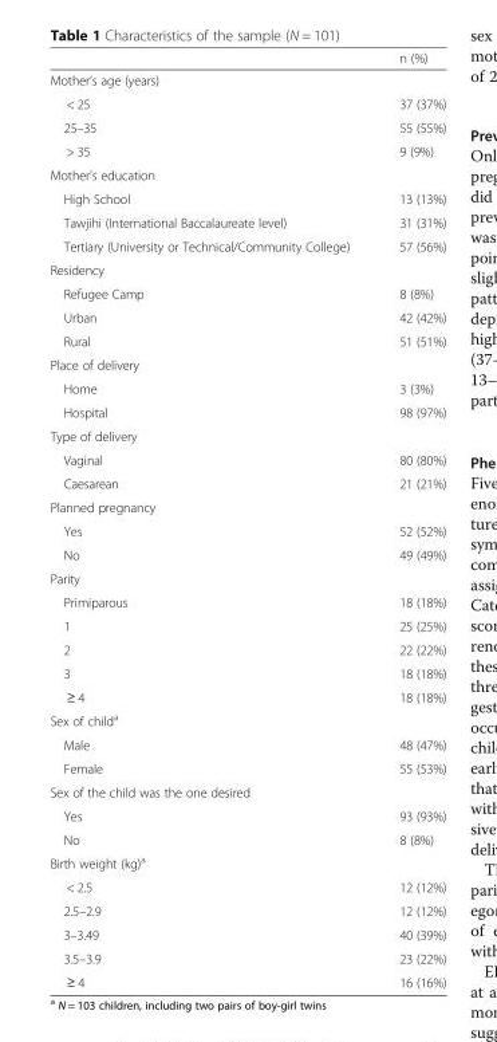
<table><thead><tr><td></td><td>n (%)</td></tr></thead><tbody><tr><td colspan="2">Mother’s age (years)</td></tr><tr><td>&lt; 25</td><td>37 (37%)</td></tr><tr><td>25–35</td><td>55 (55%)</td></tr><tr><td>&gt; 35</td><td>9 (9%)</td></tr><tr><td colspan="2">Mother’s education</td></tr><tr><td>High School</td><td>13 (13%)</td></tr><tr><td>Tawjihi (International Baccalaureate level)</td><td>31 (31%)</td></tr><tr><td>Tertiary (University or Technical/Community College)</td><td>57 (56%)</td></tr><tr><td colspan="2">Residency</td></tr><tr><td>Refugee Camp</td><td>8 (8%)</td></tr><tr><td>Urban</td><td>42 (42%)</td></tr><tr><td>Rural</td><td>51 (51%)</td></tr><tr><td colspan="2">Place of delivery</td></tr><tr><td>Home</td><td>3 (3%)</td></tr><tr><td>Hospital</td><td>98 (97%)</td></tr><tr><td colspan="2">Type of delivery</td></tr><tr><td>Vaginal</td><td>80 (80%)</td></tr><tr><td>Caesarean</td><td>21 (21%)</td></tr><tr><td colspan="2">Planned pregnancy</td></tr><tr><td>Yes</td><td>52 (52%)</td></tr><tr><td>No</td><td>49 (49%)</td></tr><tr><td colspan="2">Parity</td></tr><tr><td>Primiparous</td><td>18 (18%)</td></tr><tr><td>1</td><td>25 (25%)</td></tr><tr><td>2</td><td>22 (22%)</td></tr><tr><td>3</td><td>18 (18%)</td></tr><tr><td>≥ 4</td><td>18 (18%)</td></tr><tr><td colspan="2">Sex of child<sup>a</sup></td></tr><tr><td>Male</td><td>48 (47%)</td></tr><tr><td>Female</td><td>55 (53%)</td></tr><tr><td colspan="2">Sex of the child was the one desired</td></tr><tr><td>Yes</td><td>93 (93%)</td></tr><tr><td>No</td><td>8 (8%)</td></tr><tr><td colspan="2">Birth weight (kg)<sup>a</sup></td></tr><tr><td>&lt; 2.5</td><td>12 (12%)</td></tr><tr><td>2.5–2.9</td><td>12 (12%)</td></tr><tr><td>3–3.49</td><td>40 (39%)</td></tr><tr><td>3.5–3.9</td><td>23 (22%)</td></tr><tr><td>≥ 4</td><td>16 (16%)</td></tr></tbody></table>